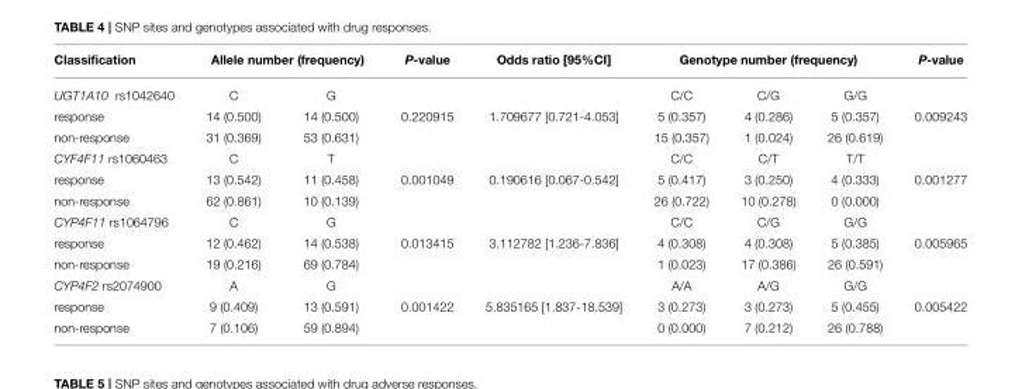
<table><thead><tr><td rowspan="2">Classification UGT1A10 rs1042640</td><td colspan="2">Allele number (frequency)</td><td rowspan="2">P-value</td><td rowspan="2">Odds ratio [95%CI]</td><td colspan="3">Genotype number (frequency)</td><td rowspan="2">P-value</td></tr><tr><td>C</td><td>G</td><td>C/C</td><td>C/G</td><td>G/G</td></tr></thead><tbody><tr><td>response</td><td>14 (0.500)</td><td>14 (0.500)</td><td>0.220915</td><td>1.709677 [0.721-4.053]</td><td>5 (0.357)</td><td>4 (0.286)</td><td>5 (0.357)</td><td>0.009243</td></tr><tr><td>non-response</td><td>31 (0.369)</td><td>53 (0.631)</td><td></td><td></td><td>15 (0.357)</td><td>1 (0.024)</td><td>26 (0.619)</td><td></td></tr><tr><td>CYF4F11 rs1060463</td><td>C</td><td>T</td><td></td><td></td><td>C/C</td><td>C/T</td><td>T/T</td><td></td></tr><tr><td>response</td><td>13 (0.542)</td><td>11 (0.458)</td><td>0.001049</td><td>0.190616 [0.067-0.542]</td><td>5 (0.417)</td><td>3 (0.250)</td><td>4 (0.333)</td><td>0.001277</td></tr><tr><td>non-response</td><td>62 (0.861)</td><td>10 (0.139)</td><td></td><td></td><td>26 (0.722)</td><td>10 (0.278)</td><td>0 (0.000)</td><td></td></tr><tr><td>CYP4F11 rs1064796</td><td>C</td><td>G</td><td></td><td></td><td>C/C</td><td>C/G</td><td>G/G</td><td></td></tr><tr><td>response</td><td>12 (0.462)</td><td>14 (0.538)</td><td>0.013415</td><td>3.112782 [1.236-7.836]</td><td>4 (0.308)</td><td>4 (0.308)</td><td>5 (0.385)</td><td>0.005965</td></tr><tr><td>non-response</td><td>19 (0.216)</td><td>69 (0.784)</td><td></td><td></td><td>1 (0.023)</td><td>17 (0.386)</td><td>26 (0.591)</td><td></td></tr><tr><td>CYP4F2 rs2074900</td><td>A</td><td>G</td><td></td><td></td><td>A/A</td><td>A/G</td><td>G/G</td><td></td></tr><tr><td>response</td><td>9 (0.409)</td><td>13 (0.591)</td><td>0.001422</td><td>5.835165 [1.837-18.539]</td><td>3 (0.273)</td><td>3 (0.273)</td><td>5 (0.455)</td><td>0.005422</td></tr><tr><td>non-response</td><td>7 (0.106)</td><td>59 (0.894)</td><td></td><td></td><td>0 (0.000)</td><td>7 (0.212)</td><td>26 (0.788)</td><td></td></tr></tbody></table>